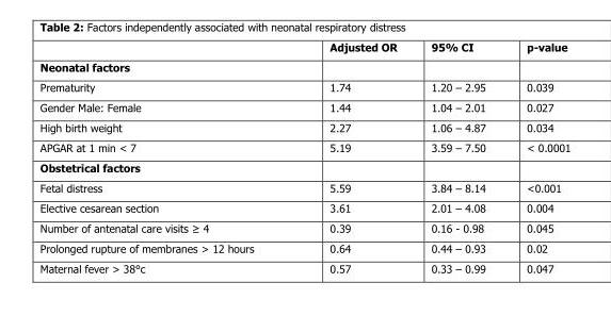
<table><thead><tr><td></td><td>Adjusted OR</td><td>95% CI</td><td>p-value</td></tr></thead><tbody><tr><td colspan="4">Neonatal factors</td></tr><tr><td>Prematurity</td><td>1.74</td><td>1.20 – 2.95</td><td>0.039</td></tr><tr><td>Gender Male: Female</td><td>1.44</td><td>1.04 – 2.01</td><td>0.027</td></tr><tr><td>High birth weight</td><td>2.27</td><td>1.06 – 4.87</td><td>0.034</td></tr><tr><td>APGAR at 1 min &lt; 7</td><td>5.19</td><td>3.59 – 7.50</td><td>&lt; 0.0001</td></tr><tr><td colspan="4">Obstetrical factors</td></tr><tr><td>Fetal distress</td><td>5.59</td><td>3.84 – 8.14</td><td>&lt;0.001</td></tr><tr><td>Elective cesarean section</td><td>3.61</td><td>2.01 – 4.08</td><td>0.004</td></tr><tr><td>Number of antenatal care visits ≥ 4</td><td>0.39</td><td>0.16 - 0.98</td><td>0.045</td></tr><tr><td>Prolonged rupture of membranes &gt; 12 hours</td><td>0.64</td><td>0.44 – 0.93</td><td>0.02</td></tr><tr><td>Maternal fever &gt; 38°c</td><td>0.57</td><td>0.33 – 0.99</td><td>0.047</td></tr></tbody></table>